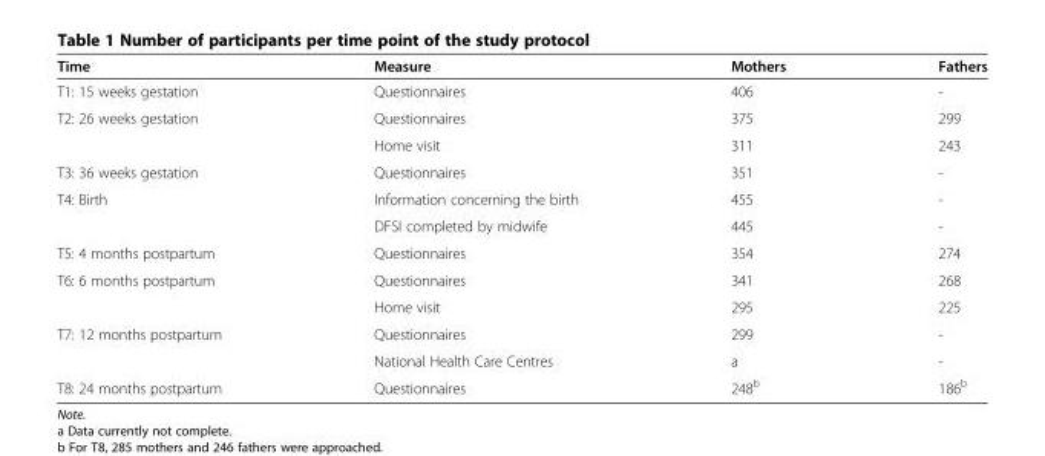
<table><thead><tr><td>Time</td><td>Measure</td><td>Mothers</td><td>Fathers</td></tr></thead><tbody><tr><td>T1: 15 weeks gestation</td><td>Questionnaires</td><td>406</td><td>-</td></tr><tr><td rowspan="2">T2: 26 weeks gestation</td><td>Questionnaires</td><td>375</td><td>299</td></tr><tr><td>Home visit</td><td>311</td><td>243</td></tr><tr><td>T3: 36 weeks gestation</td><td>Questionnaires</td><td>351</td><td>-</td></tr><tr><td rowspan="2">T4: Birth</td><td>Information concerning the birth</td><td>455</td><td>-</td></tr><tr><td>DFSI completed by midwife</td><td>445</td><td>-</td></tr><tr><td>T5: 4 months postpartum</td><td>Questionnaires</td><td>354</td><td>274</td></tr><tr><td rowspan="2">T6: 6 months postpartum</td><td>Questionnaires</td><td>341</td><td>268</td></tr><tr><td>Home visit</td><td>295</td><td>225</td></tr><tr><td rowspan="2">T7: 12 months postpartum</td><td>Questionnaires</td><td>299</td><td>-</td></tr><tr><td>National Health Care Centres</td><td>a</td><td>-</td></tr><tr><td>T8: 24 months postpartum</td><td>Questionnaires</td><td>248<sup>b</sup></td><td>186<sup>b</sup></td></tr></tbody></table>